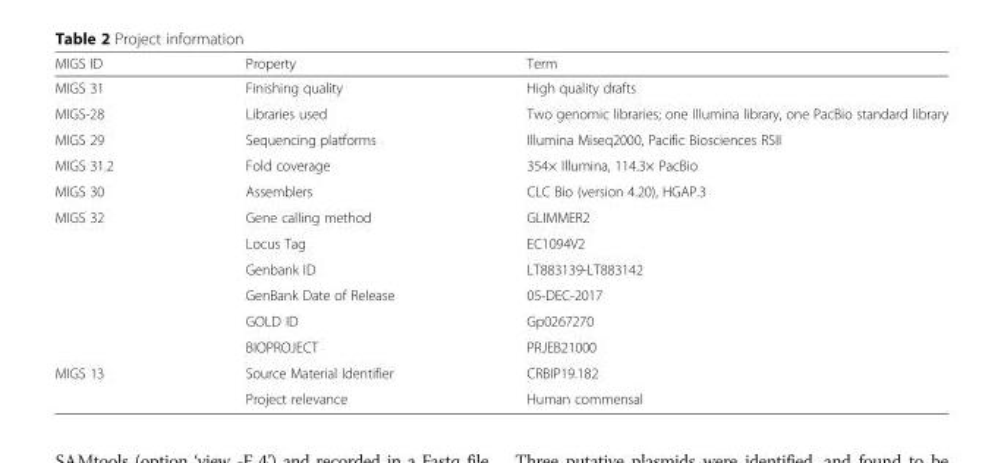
<table><thead><tr><td>MIGS ID</td><td>Property</td><td>Term</td></tr></thead><tbody><tr><td>MIGS 31</td><td>Finishing quality</td><td>High quality drafts</td></tr><tr><td>MIGS-28</td><td>Libraries used</td><td>Two genomic libraries; one Illumina library, one PacBio standard library</td></tr><tr><td>MIGS 29</td><td>Sequencing platforms</td><td>Illumina Miseq2000, Pacific Biosciences RSII</td></tr><tr><td>MIGS 31.2</td><td>Fold coverage</td><td>354× Illumina, 114.3× PacBio</td></tr><tr><td>MIGS 30</td><td>Assemblers</td><td>CLC Bio (version 4.20), HGAP.3</td></tr><tr><td rowspan="6">MIGS 32</td><td>Gene calling method</td><td>GLIMMER2</td></tr><tr><td>Locus Tag</td><td>EC1094V2</td></tr><tr><td>Genbank ID</td><td>LT883139-LT883142</td></tr><tr><td>GenBank Date of Release</td><td>05-DEC-2017</td></tr><tr><td>GOLD ID</td><td>Gp0267270</td></tr><tr><td>BIOPROJECT</td><td>PRJEB21000</td></tr><tr><td rowspan="2">MIGS 13</td><td>Source Material Identifier</td><td>CRBIP19.182</td></tr><tr><td>Project relevance</td><td>Human commensal</td></tr></tbody></table>